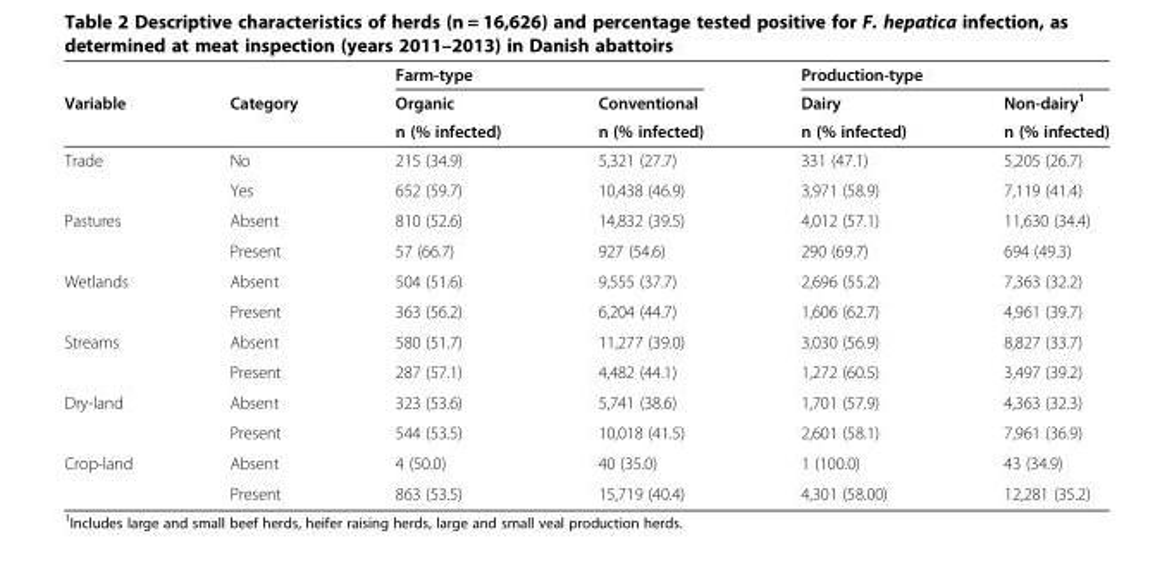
<table><thead><tr><td rowspan="3">Variable</td><td rowspan="3">Category</td><td colspan="2">Farm-type</td><td colspan="2">Production-type</td></tr><tr><td rowspan="2">Organic n (% infected)</td><td rowspan="2">Conventional n (% infected)</td><td rowspan="2">Dairy n (% infected)</td><td rowspan="2">Non-dairy<sup>1</sup> n (% infected)</td></tr><tr></tr></thead><tbody><tr><td rowspan="2">Trade</td><td>No</td><td>215 (34.9)</td><td>5,321 (27.7)</td><td>331 (47.1)</td><td>5,205 (26.7)</td></tr><tr><td>Yes</td><td>652 (59.7)</td><td>10,438 (46.9)</td><td>3,971 (58.9)</td><td>7,119 (41.4)</td></tr><tr><td rowspan="2">Pastures</td><td>Absent</td><td>810 (52.6)</td><td>14,832 (39.5)</td><td>4,012 (57.1)</td><td>11,630 (34.4)</td></tr><tr><td>Present</td><td>57 (66.7)</td><td>927 (54.6)</td><td>290 (69.7)</td><td>694 (49.3)</td></tr><tr><td rowspan="2">Wetlands</td><td>Absent</td><td>504 (51.6)</td><td>9,555 (37.7)</td><td>2,696 (55.2)</td><td>7,363 (32.2)</td></tr><tr><td>Present</td><td>363 (56.2)</td><td>6,204 (44.7)</td><td>1,606 (62.7)</td><td>4,961 (39.7)</td></tr><tr><td rowspan="2">Streams</td><td>Absent</td><td>580 (51.7)</td><td>11,277 (39.0)</td><td>3,030 (56.9)</td><td>8,827 (33.7)</td></tr><tr><td>Present</td><td>287 (57.1)</td><td>4,482 (44.1)</td><td>1,272 (60.5)</td><td>3,497 (39.2)</td></tr><tr><td rowspan="2">Dry-land</td><td>Absent</td><td>323 (53.6)</td><td>5,741 (38.6)</td><td>1,701 (57.9)</td><td>4,363 (32.3)</td></tr><tr><td>Present</td><td>544 (53.5)</td><td>10,018 (41.5)</td><td>2,601 (58.1)</td><td>7,961 (36.9)</td></tr><tr><td rowspan="2">Crop-land</td><td>Absent</td><td>4 (50.0)</td><td>40 (35.0)</td><td>1 (100.0)</td><td>43 (34.9)</td></tr><tr><td>Present</td><td>863 (53.5)</td><td>15,719 (40.4)</td><td>4,301 (58.00)</td><td>12,281 (35.2)</td></tr></tbody></table>